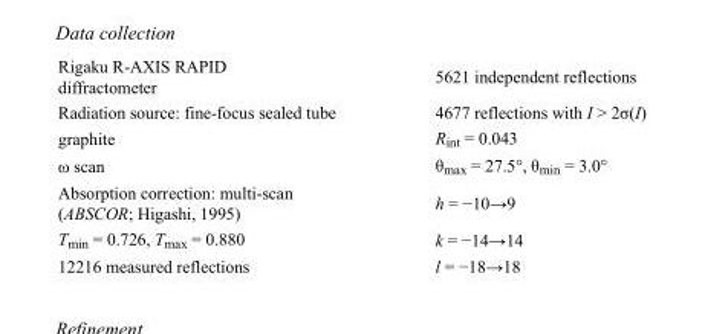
<table><tbody><tr><td>Rigaku R-AXIS RAPID diffractometer</td><td>5621 independent reflections</td></tr><tr><td>Radiation source: fine-focus sealed tube</td><td>4677 reflections with I &gt; 2σ(I)</td></tr><tr><td>graphite</td><td>R<sub>int</sub> = 0.043</td></tr><tr><td>ω scan</td><td>θ<sub>max</sub> = 27.5°, θ<sub>min</sub> = 3.0°</td></tr><tr><td>Absorption correction: multi-scan (ABSCOR; Higashi, 1995)</td><td>h = −10→9</td></tr><tr><td>T<sub>min</sub> = 0.726, T<sub>max</sub> = 0.880</td><td>k = −14→14</td></tr><tr><td>12216 measured reflections</td><td>l = −18→18</td></tr></tbody></table>